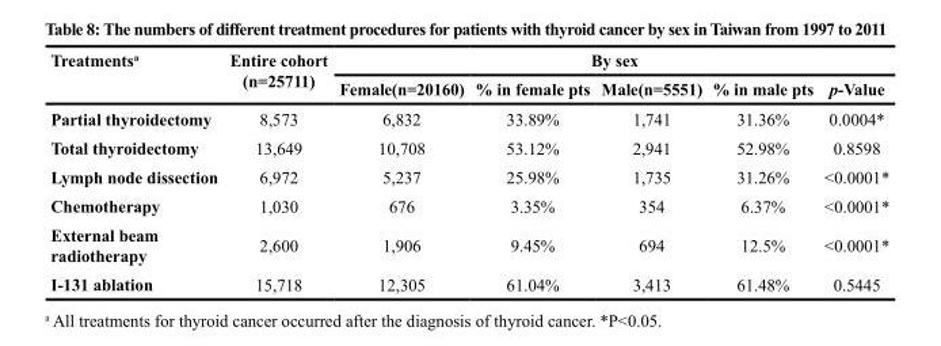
<table><thead><tr><td rowspan="2">Treatments<sup>a</sup></td><td rowspan="2">Entire cohort (n=25711)</td><td colspan="5">By sex</td></tr><tr><td>Female(n=20160)</td><td>% in female pts</td><td>Male(n=5551)</td><td>% in male pts</td><td>p-Value</td></tr></thead><tbody><tr><td>Partial thyroidectomy</td><td>8,573</td><td>6,832</td><td>33.89%</td><td>1,741</td><td>31.36%</td><td>0.0004*</td></tr><tr><td>Total thyroidectomy</td><td>13,649</td><td>10,708</td><td>53.12%</td><td>2,941</td><td>52.98%</td><td>0.8598</td></tr><tr><td>Lymph node dissection</td><td>6,972</td><td>5,237</td><td>25.98%</td><td>1,735</td><td>31.26%</td><td>&lt;0.0001*</td></tr><tr><td>Chemotherapy</td><td>1,030</td><td>676</td><td>3.35%</td><td>354</td><td>6.37%</td><td>&lt;0.0001*</td></tr><tr><td>External beam radiotherapy</td><td>2,600</td><td>1,906</td><td>9.45%</td><td>694</td><td>12.5%</td><td>&lt;0.0001*</td></tr><tr><td>I-131 ablation</td><td>15,718</td><td>12,305</td><td>61.04%</td><td>3,413</td><td>61.48%</td><td>0.5445</td></tr></tbody></table>